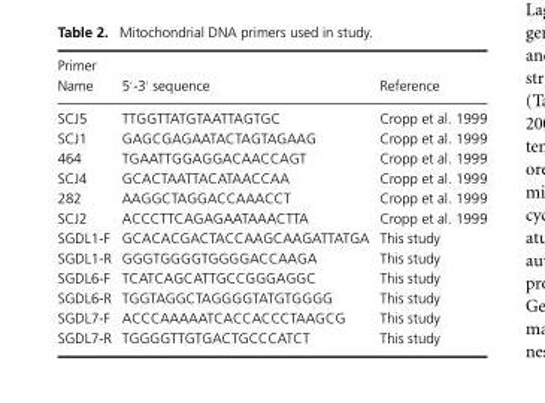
<table><thead><tr><td>Primer Name</td><td>5′-3′ sequence</td><td>Reference</td></tr></thead><tbody><tr><td>SCJ5</td><td>TTGGTTATGTAATTAGTGC</td><td>Cropp et al. 1999</td></tr><tr><td>SCJ1</td><td>GAGCGAGAATACTAGTAGAAG</td><td>Cropp et al. 1999</td></tr><tr><td>464</td><td>TGAATTGGAGGACAACCAGT</td><td>Cropp et al. 1999</td></tr><tr><td>SCJ4</td><td>GCACTAATTACATAACCAA</td><td>Cropp et al. 1999</td></tr><tr><td>282</td><td>AAGGCTAGGACCAAACCT</td><td>Cropp et al. 1999</td></tr><tr><td>SCJ2</td><td>ACCCTTCAGAGAATAAACTTA</td><td>Cropp et al. 1999</td></tr><tr><td>SGDL1-F</td><td>GCACACGACTACCAAGCAAGATTATGA</td><td>This study</td></tr><tr><td>SGDL1-R</td><td>GGGTGGGGTGGGGACCAAGA</td><td>This study</td></tr><tr><td>SGDL6-F</td><td>TCATCAGCATTGCCGGGAGGC</td><td>This study</td></tr><tr><td>SGDL6-R</td><td>TGGTAGGCTAGGGGTATGTGGGG</td><td>This study</td></tr><tr><td>SGDL7-F</td><td>ACCCAAAAATCACCACCCTAAGCG</td><td>This study</td></tr><tr><td>SGDL7-R</td><td>TGGGGTTGTGACTGCCCATCT</td><td>This study</td></tr></tbody></table>